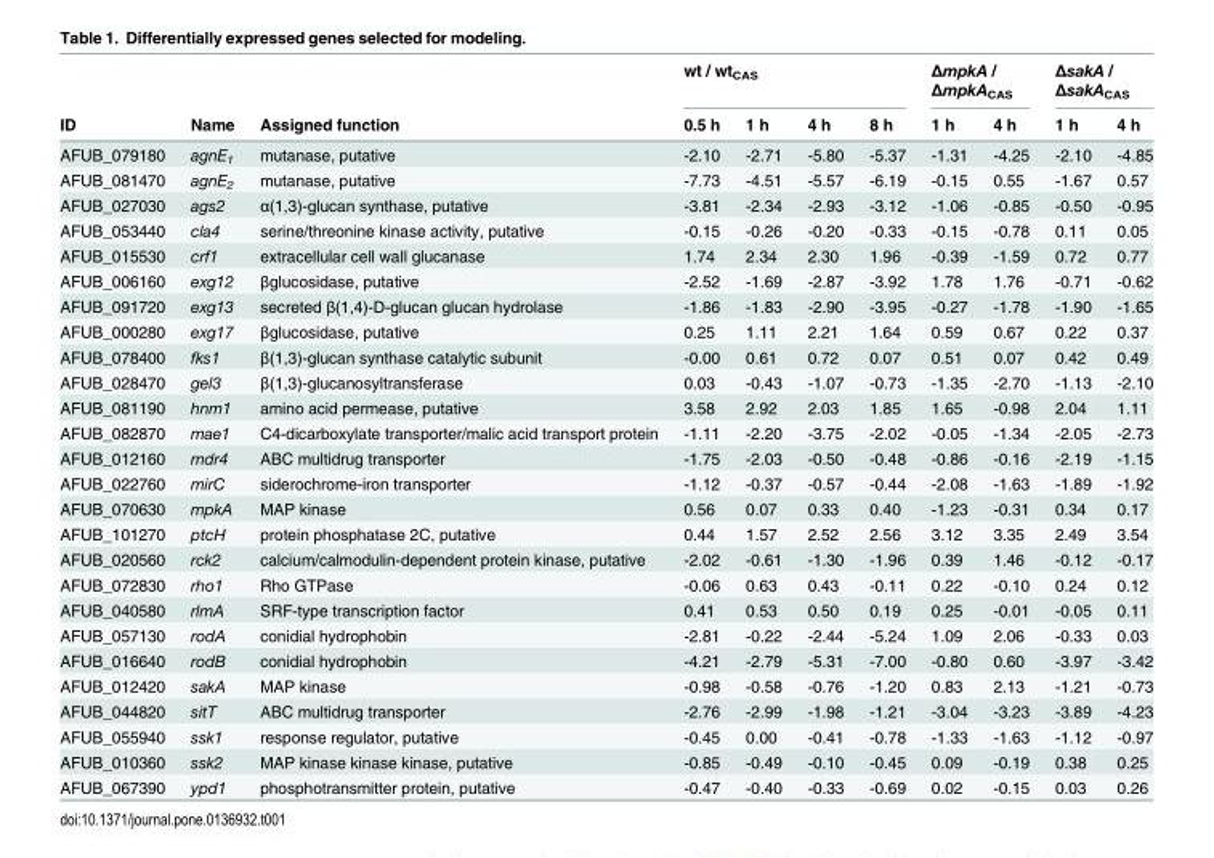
<table><thead><tr><td rowspan="2">ID</td><td rowspan="2">Name</td><td rowspan="2">Assigned function</td><td colspan="4">wt / wt<sub>CAS</sub></td><td colspan="2">ΔmpkA / ΔmpkA<sub>CAS</sub></td><td colspan="2">ΔsakA / ΔsakA<sub>CAS</sub></td></tr><tr><td>0.5 h</td><td>1 h</td><td>4 h</td><td>8 h</td><td>1 h</td><td>4 h</td><td>1 h</td><td>4 h</td></tr></thead><tbody><tr><td>AFUB_079180</td><td>agnE<sub>1</sub></td><td>mutanase, putative</td><td>-2.10</td><td>-2.71</td><td>-5.80</td><td>-5.37</td><td>-1.31</td><td>-4.25</td><td>-2.10</td><td>-4.85</td></tr><tr><td>AFUB_081470</td><td>agnE<sub>2</sub></td><td>mutanase, putative</td><td>-7.73</td><td>-4.51</td><td>-5.57</td><td>-6.19</td><td>-0.15</td><td>0.55</td><td>-1.67</td><td>0.57</td></tr><tr><td>AFUB_027030</td><td>ags2</td><td>α(1,3)-glucan synthase, putative</td><td>-3.81</td><td>-2.34</td><td>-2.93</td><td>-3.12</td><td>-1.06</td><td>-0.85</td><td>-0.50</td><td>-0.95</td></tr><tr><td>AFUB_053440</td><td>cla4</td><td>serine/threonine kinase activity, putative</td><td>-0.15</td><td>-0.26</td><td>-0.20</td><td>-0.33</td><td>-0.15</td><td>-0.78</td><td>0.11</td><td>0.05</td></tr><tr><td>AFUB_015530</td><td>crf1</td><td>extracellular cell wall glucanase</td><td>1.74</td><td>2.34</td><td>2.30</td><td>1.96</td><td>-0.39</td><td>-1.59</td><td>0.72</td><td>0.77</td></tr><tr><td>AFUB_006160</td><td>exg12</td><td>βglucosidase, putative</td><td>-2.52</td><td>-1.69</td><td>-2.87</td><td>-3.92</td><td>1.78</td><td>1.76</td><td>-0.71</td><td>-0.62</td></tr><tr><td>AFUB_091720</td><td>exg13</td><td>secreted β(1,4)-D-glucan glucan hydrolase</td><td>-1.86</td><td>-1.83</td><td>-2.90</td><td>-3.95</td><td>-0.27</td><td>-1.78</td><td>-1.90</td><td>-1.65</td></tr><tr><td>AFUB_000280</td><td>exg17</td><td>βglucosidase, putative</td><td>0.25</td><td>1.11</td><td>2.21</td><td>1.64</td><td>0.59</td><td>0.67</td><td>0.22</td><td>0.37</td></tr><tr><td>AFUB_078400</td><td>fks1</td><td>β(1,3)-glucan synthase catalytic subunit</td><td>-0.00</td><td>0.61</td><td>0.72</td><td>0.07</td><td>0.51</td><td>0.07</td><td>0.42</td><td>0.49</td></tr><tr><td>AFUB_028470</td><td>gel3</td><td>β(1,3)-glucanosyltransferase</td><td>0.03</td><td>-0.43</td><td>-1.07</td><td>-0.73</td><td>-1.35</td><td>-2.70</td><td>-1.13</td><td>-2.10</td></tr><tr><td>AFUB_081190</td><td>hnm1</td><td>amino acid permease, putative</td><td>3.58</td><td>2.92</td><td>2.03</td><td>1.85</td><td>1.65</td><td>-0.98</td><td>2.04</td><td>1.11</td></tr><tr><td>AFUB_082870</td><td>mae1</td><td>C4-dicarboxylate transporter/malic acid transport protein</td><td>-1.11</td><td>-2.20</td><td>-3.75</td><td>-2.02</td><td>-0.05</td><td>-1.34</td><td>-2.05</td><td>-2.73</td></tr><tr><td>AFUB_012160</td><td>mdr4</td><td>ABC multidrug transporter</td><td>-1.75</td><td>-2.03</td><td>-0.50</td><td>-0.48</td><td>-0.86</td><td>-0.16</td><td>-2.19</td><td>-1.15</td></tr><tr><td>AFUB_022760</td><td>mirC</td><td>siderochrome-iron transporter</td><td>-1.12</td><td>-0.37</td><td>-0.57</td><td>-0.44</td><td>-2.08</td><td>-1.63</td><td>-1.89</td><td>-1.92</td></tr><tr><td>AFUB_070630</td><td>mpkA</td><td>MAP kinase</td><td>0.56</td><td>0.07</td><td>0.33</td><td>0.40</td><td>-1.23</td><td>-0.31</td><td>0.34</td><td>0.17</td></tr><tr><td>AFUB_101270</td><td>ptcH</td><td>protein phosphatase 2C, putative</td><td>0.44</td><td>1.57</td><td>2.52</td><td>2.56</td><td>3.12</td><td>3.35</td><td>2.49</td><td>3.54</td></tr><tr><td>AFUB_020560</td><td>rck2</td><td>calcium/calmodulin-dependent protein kinase, putative</td><td>-2.02</td><td>-0.61</td><td>-1.30</td><td>-1.96</td><td>0.39</td><td>1.46</td><td>-0.12</td><td>-0.17</td></tr><tr><td>AFUB_072830</td><td>rho1</td><td>Rho GTPase</td><td>-0.06</td><td>0.63</td><td>0.43</td><td>-0.11</td><td>0.22</td><td>-0.10</td><td>0.24</td><td>0.12</td></tr><tr><td>AFUB_040580</td><td>rlmA</td><td>SRF-type transcription factor</td><td>0.41</td><td>0.53</td><td>0.50</td><td>0.19</td><td>0.25</td><td>-0.01</td><td>-0.05</td><td>0.11</td></tr><tr><td>AFUB_057130</td><td>rodA</td><td>conidial hydrophobin</td><td>-2.81</td><td>-0.22</td><td>-2.44</td><td>-5.24</td><td>1.09</td><td>2.06</td><td>-0.33</td><td>0.03</td></tr><tr><td>AFUB_016640</td><td>rodB</td><td>conidial hydrophobin</td><td>-4.21</td><td>-2.79</td><td>-5.31</td><td>-7.00</td><td>-0.80</td><td>0.60</td><td>-3.97</td><td>-3.42</td></tr><tr><td>AFUB_012420</td><td>sakA</td><td>MAP kinase</td><td>-0.98</td><td>-0.58</td><td>-0.76</td><td>-1.20</td><td>0.83</td><td>2.13</td><td>-1.21</td><td>-0.73</td></tr><tr><td>AFUB_044820</td><td>sitT</td><td>ABC multidrug transporter</td><td>-2.76</td><td>-2.99</td><td>-1.98</td><td>-1.21</td><td>-3.04</td><td>-3.23</td><td>-3.89</td><td>-4.23</td></tr><tr><td>AFUB_055940</td><td>ssk1</td><td>response regulator, putative</td><td>-0.45</td><td>0.00</td><td>-0.41</td><td>-0.78</td><td>-1.33</td><td>-1.63</td><td>-1.12</td><td>-0.97</td></tr><tr><td>AFUB_010360</td><td>ssk2</td><td>MAP kinase kinase kinase, putative</td><td>-0.85</td><td>-0.49</td><td>-0.10</td><td>-0.45</td><td>0.09</td><td>-0.19</td><td>0.38</td><td>0.25</td></tr><tr><td>AFUB_067390</td><td>ypd1</td><td>phosphotransmitter protein, putative</td><td>-0.47</td><td>-0.40</td><td>-0.33</td><td>-0.69</td><td>0.02</td><td>-0.15</td><td>0.03</td><td>0.26</td></tr></tbody></table>